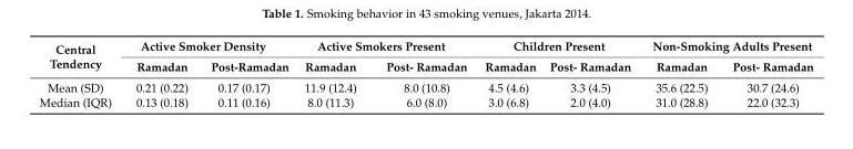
<table><thead><tr><td rowspan="2">Central Tendency</td><td colspan="2">Active Smoker Density</td><td colspan="2">Active Smokers Present</td><td colspan="2">Children Present</td><td colspan="2">Non-Smoking Adults Present</td></tr><tr><td>Ramadan</td><td>Post-Ramadan</td><td>Ramadan</td><td>Post- Ramadan</td><td>Ramadan</td><td>Post- Ramadan</td><td>Ramadan</td><td>Post- Ramadan</td></tr></thead><tbody><tr><td>Mean (SD)</td><td>0.21 (0.22)</td><td>0.17 (0.17)</td><td>11.9 (12.4)</td><td>8.0 (10.8)</td><td>4.5 (4.6)</td><td>3.3 (4.5)</td><td>35.6 (22.5)</td><td>30.7 (24.6)</td></tr><tr><td>Median (IQR)</td><td>0.13 (0.18)</td><td>0.11 (0.16)</td><td>8.0 (11.3)</td><td>6.0 (8.0)</td><td>3.0 (6.8)</td><td>2.0 (4.0)</td><td>31.0 (28.8)</td><td>22.0 (32.3)</td></tr></tbody></table>